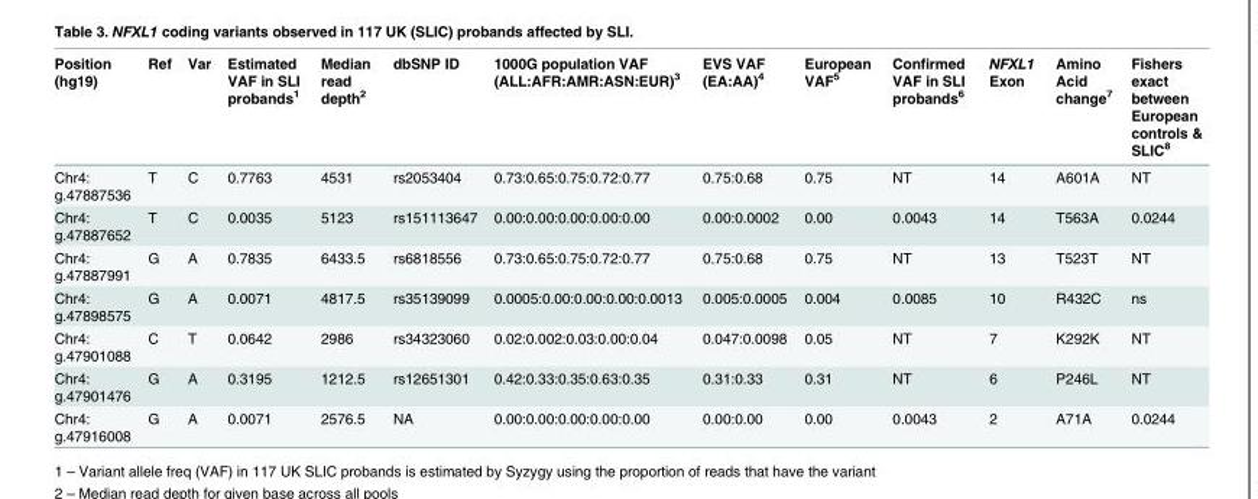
<table><thead><tr><td>Position (hg19)</td><td>Ref</td><td>Var</td><td>Estimated VAF in SLI probands<sup>1</sup></td><td>Median read depth<sup>2</sup></td><td>dbSNP ID</td><td>1000G population VAF (ALL:AFR:AMR:ASN:EUR)<sup>3</sup></td><td>EVS VAF (EA:AA)<sup>4</sup></td><td>European VAF<sup>5</sup></td><td>Confirmed VAF in SLI probands<sup>6</sup></td><td>NFXL1 Exon</td><td>Amino Acid change<sup>7</sup></td><td>Fishers exact between European controls &amp; SLIC<sup>8</sup></td></tr></thead><tbody><tr><td>Chr4: g.47887536</td><td>T</td><td>C</td><td>0.7763</td><td>4531</td><td>rs2053404</td><td>0.73:0.65:0.75:0.72:0.77</td><td>0.75:0.68</td><td>0.75</td><td>NT</td><td>14</td><td>A601A</td><td>NT</td></tr><tr><td>Chr4: g.47887652</td><td>T</td><td>C</td><td>0.0035</td><td>5123</td><td>rs151113647</td><td>0.00:0.00:0.00:0.00:0.00</td><td>0.00:0.0002</td><td>0.00</td><td>0.0043</td><td>14</td><td>T563A</td><td>0.0244</td></tr><tr><td>Chr4: g.47887991</td><td>G</td><td>A</td><td>0.7835</td><td>6433.5</td><td>rs6818556</td><td>0.73:0.65:0.75:0.72:0.77</td><td>0.75:0.68</td><td>0.75</td><td>NT</td><td>13</td><td>T523T</td><td>NT</td></tr><tr><td>Chr4: g.47898575</td><td>G</td><td>A</td><td>0.0071</td><td>4817.5</td><td>rs35139099</td><td>0.0005:0.00:0.00:0.00:0.0013</td><td>0.005:0.0005</td><td>0.004</td><td>0.0085</td><td>10</td><td>R432C</td><td>ns</td></tr><tr><td>Chr4: g.47901088</td><td>C</td><td>T</td><td>0.0642</td><td>2986</td><td>rs34323060</td><td>0.02:0.002:0.03:0.00:0.04</td><td>0.047:0.0098</td><td>0.05</td><td>NT</td><td>7</td><td>K292K</td><td>NT</td></tr><tr><td>Chr4: g.47901476</td><td>G</td><td>A</td><td>0.3195</td><td>1212.5</td><td>rs12651301</td><td>0.42:0.33:0.35:0.63:0.35</td><td>0.31:0.33</td><td>0.31</td><td>NT</td><td>6</td><td>P246L</td><td>NT</td></tr><tr><td>Chr4: g.47916008</td><td>G</td><td>A</td><td>0.0071</td><td>2576.5</td><td>NA</td><td>0.00:0.00:0.00:0.00:0.00</td><td>0.00:0.00</td><td>0.00</td><td>0.0043</td><td>2</td><td>A71A</td><td>0.0244</td></tr></tbody></table>